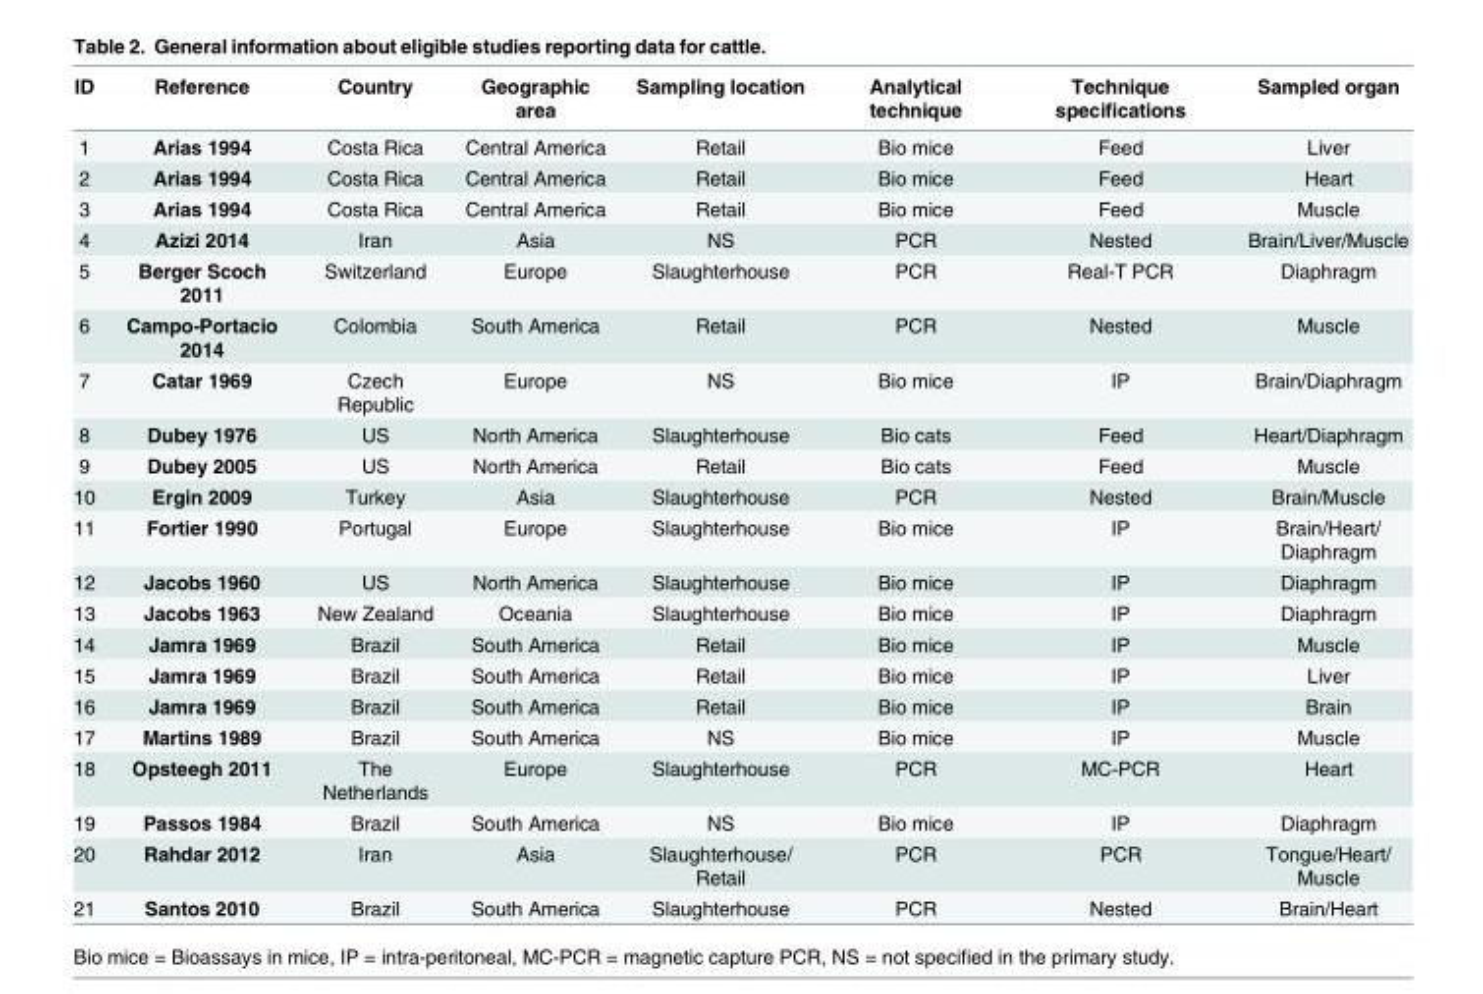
<table><thead><tr><td>ID</td><td>Reference</td><td>Country</td><td>Geographic area</td><td>Sampling location</td><td>Analytical technique</td><td>Technique specifications</td><td>Sampled organ</td></tr></thead><tbody><tr><td>1</td><td>Arias 1994</td><td>Costa Rica</td><td>Central America</td><td>Retail</td><td>Bio mice</td><td>Feed</td><td>Liver</td></tr><tr><td>2</td><td>Arias 1994</td><td>Costa Rica</td><td>Central America</td><td>Retail</td><td>Bio mice</td><td>Feed</td><td>Heart</td></tr><tr><td>3</td><td>Arias 1994</td><td>Costa Rica</td><td>Central America</td><td>Retail</td><td>Bio mice</td><td>Feed</td><td>Muscle</td></tr><tr><td>4</td><td>Azizi 2014</td><td>Iran</td><td>Asia</td><td>NS</td><td>PCR</td><td>Nested</td><td>Brain/Liver/Muscle</td></tr><tr><td>5</td><td>Berger Scoch 2011</td><td>Switzerland</td><td>Europe</td><td>Slaughterhouse</td><td>PCR</td><td>Real-T PCR</td><td>Diaphragm</td></tr><tr><td>6</td><td>Campo-Portacio 2014</td><td>Colombia</td><td>South America</td><td>Retail</td><td>PCR</td><td>Nested</td><td>Muscle</td></tr><tr><td>7</td><td>Catar 1969</td><td>Czech Republic</td><td>Europe</td><td>NS</td><td>Bio mice</td><td>IP</td><td>Brain/Diaphragm</td></tr><tr><td>8</td><td>Dubey 1976</td><td>US</td><td>North America</td><td>Slaughterhouse</td><td>Bio cats</td><td>Feed</td><td>Heart/Diaphragm</td></tr><tr><td>9</td><td>Dubey 2005</td><td>US</td><td>North America</td><td>Retail</td><td>Bio cats</td><td>Feed</td><td>Muscle</td></tr><tr><td>10</td><td>Ergin 2009</td><td>Turkey</td><td>Asia</td><td>Slaughterhouse</td><td>PCR</td><td>Nested</td><td>Brain/Muscle</td></tr><tr><td>11</td><td>Fortier 1990</td><td>Portugal</td><td>Europe</td><td>Slaughterhouse</td><td>Bio mice</td><td>IP</td><td>Brain/Heart/ Diaphragm</td></tr><tr><td>12</td><td>Jacobs 1960</td><td>US</td><td>North America</td><td>Slaughterhouse</td><td>Bio mice</td><td>IP</td><td>Diaphragm</td></tr><tr><td>13</td><td>Jacobs 1963</td><td>New Zealand</td><td>Oceania</td><td>Slaughterhouse</td><td>Bio mice</td><td>IP</td><td>Diaphragm</td></tr><tr><td>14</td><td>Jamra 1969</td><td>Brazil</td><td>South America</td><td>Retail</td><td>Bio mice</td><td>IP</td><td>Muscle</td></tr><tr><td>15</td><td>Jamra 1969</td><td>Brazil</td><td>South America</td><td>Retail</td><td>Bio mice</td><td>IP</td><td>Liver</td></tr><tr><td>16</td><td>Jamra 1969</td><td>Brazil</td><td>South America</td><td>Retail</td><td>Bio mice</td><td>IP</td><td>Brain</td></tr><tr><td>17</td><td>Martins 1989</td><td>Brazil</td><td>South America</td><td>NS</td><td>Bio mice</td><td>IP</td><td>Muscle</td></tr><tr><td>18</td><td>Opsteegh 2011</td><td>The Netherlands</td><td>Europe</td><td>Slaughterhouse</td><td>PCR</td><td>MC-PCR</td><td>Heart</td></tr><tr><td>19</td><td>Passos 1984</td><td>Brazil</td><td>South America</td><td>NS</td><td>Bio mice</td><td>IP</td><td>Diaphragm</td></tr><tr><td>20</td><td>Rahdar 2012</td><td>Iran</td><td>Asia</td><td>Slaughterhouse/ Retail</td><td>PCR</td><td>PCR</td><td>Tongue/Heart/ Muscle</td></tr><tr><td>21</td><td>Santos 2010</td><td>Brazil</td><td>South America</td><td>Slaughterhouse</td><td>PCR</td><td>Nested</td><td>Brain/Heart</td></tr></tbody></table>